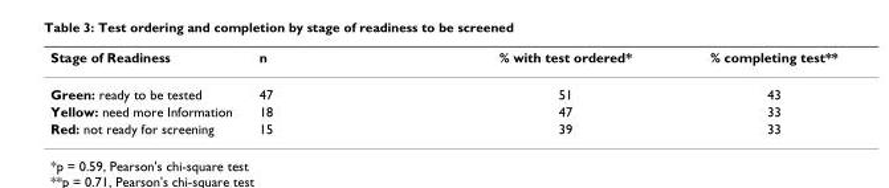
<table><thead><tr><td>Stage of Readiness</td><td>n</td><td>% with test ordered*</td><td>% completing test**</td></tr></thead><tbody><tr><td>Green: ready to be tested</td><td>47</td><td>51</td><td>43</td></tr><tr><td>Yellow: need more Information</td><td>18</td><td>47</td><td>33</td></tr><tr><td>Red: not ready for screening</td><td>15</td><td>39</td><td>33</td></tr></tbody></table>